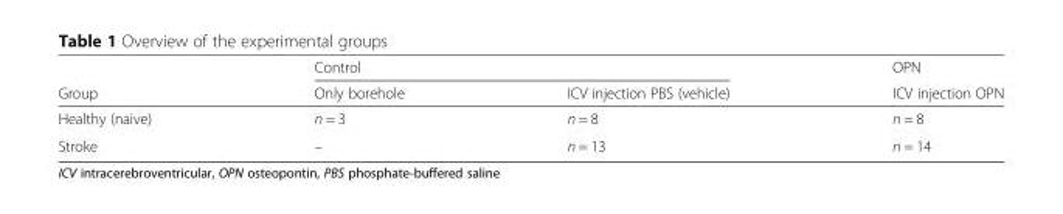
<table><thead><tr><td rowspan="2">Group</td><td colspan="2">Control</td><td rowspan="2">OPN ICV injection OPN</td></tr><tr><td>Only borehole</td><td>ICV injection PBS (vehicle)</td></tr></thead><tbody><tr><td>Healthy (naive)</td><td>n = 3</td><td>n = 8</td><td>n = 8</td></tr><tr><td>Stroke</td><td>–</td><td>n = 13</td><td>n = 14</td></tr></tbody></table>